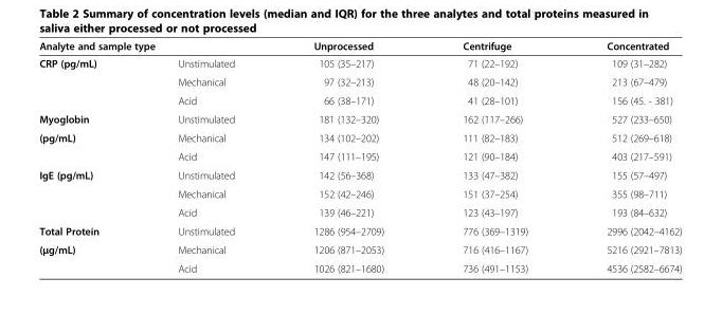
<table><thead><tr><td colspan="2">Analyte and sample type</td><td rowspan="2">Unprocessed 105 (35–217)</td><td rowspan="2">Centrifuge 71 (22–192)</td><td rowspan="2">Concentrated 109 (31–282)</td></tr><tr><td>CRP (pg/mL)</td><td>Unstimulated</td></tr></thead><tbody><tr><td></td><td>Mechanical</td><td>97 (32–213)</td><td>48 (20–142)</td><td>213 (67–479)</td></tr><tr><td></td><td>Acid</td><td>66 (38–171)</td><td>41 (28–101)</td><td>156 (45. - 381)</td></tr><tr><td>Myoglobin</td><td>Unstimulated</td><td>181 (132–320)</td><td>162 (117–266)</td><td>527 (233–650)</td></tr><tr><td rowspan="2">(pg/mL)</td><td>Mechanical</td><td>134 (102–202)</td><td>111 (82–183)</td><td>512 (269–618)</td></tr><tr><td>Acid</td><td>147 (111–195)</td><td>121 (90–184)</td><td>403 (217–591)</td></tr><tr><td rowspan="3">IgE (pg/mL)</td><td>Unstimulated</td><td>142 (56–368)</td><td>133 (47–382)</td><td>155 (57–497)</td></tr><tr><td>Mechanical</td><td>152 (42–246)</td><td>151 (37–254)</td><td>355 (98–711)</td></tr><tr><td>Acid</td><td>139 (46–221)</td><td>123 (43–197)</td><td>193 (84–632)</td></tr><tr><td>Total Protein</td><td>Unstimulated</td><td>1286 (954–2709)</td><td>776 (369–1319)</td><td>2996 (2042–4162)</td></tr><tr><td rowspan="2">(μg/mL)</td><td>Mechanical</td><td>1206 (871–2053)</td><td>716 (416–1167)</td><td>5216 (2921–7813)</td></tr><tr><td>Acid</td><td>1026 (821–1680)</td><td>736 (491–1153)</td><td>4536 (2582–6674)</td></tr></tbody></table>